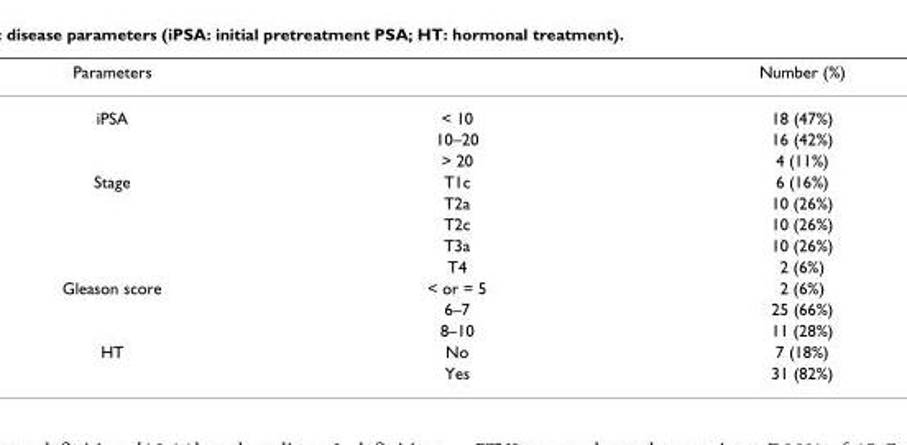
<table><thead><tr><td>Parameters</td><td></td><td>Number (%)</td></tr></thead><tbody><tr><td rowspan="3">iPSA</td><td>&lt; 10</td><td>18 (47%)</td></tr><tr><td>10–20</td><td>16 (42%)</td></tr><tr><td>&gt; 20</td><td>4 (11%)</td></tr><tr><td rowspan="5">Stage</td><td>T1c</td><td>6 (16%)</td></tr><tr><td>T2a</td><td>10 (26%)</td></tr><tr><td>T2c</td><td>10 (26%)</td></tr><tr><td>T3a</td><td>10 (26%)</td></tr><tr><td>T4</td><td>2 (6%)</td></tr><tr><td rowspan="3">Gleason score</td><td>&lt; or = 5</td><td>2 (6%)</td></tr><tr><td>6–7</td><td>25 (66%)</td></tr><tr><td>8–10</td><td>11 (28%)</td></tr><tr><td rowspan="2">HT</td><td>No</td><td>7 (18%)</td></tr><tr><td>Yes</td><td>31 (82%)</td></tr></tbody></table>